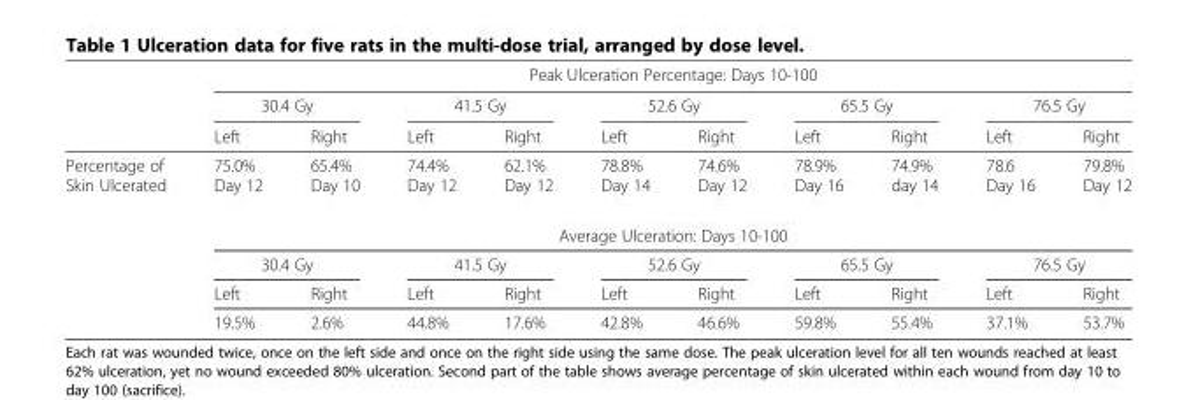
<table><thead><tr><td rowspan="3"></td><td colspan="10">Peak Ulceration Percentage: Days 10-100</td></tr><tr><td colspan="2">30.4 Gy</td><td colspan="2">41.5 Gy</td><td colspan="2">52.6 Gy</td><td colspan="2">65.5 Gy</td><td colspan="2">76.5 Gy</td></tr><tr><td>Left</td><td>Right</td><td>Left</td><td>Right</td><td>Left</td><td>Right</td><td>Left</td><td>Right</td><td>Left</td><td>Right</td></tr></thead><tbody><tr><td rowspan="5">Percentage of Skin Ulcerated</td><td>75.0% Day 12</td><td>65.4% Day 10</td><td>74.4% Day 12</td><td>62.1% Day 12</td><td>78.8% Day 14</td><td>74.6% Day 12</td><td>78.9% Day 16</td><td>74.9% day 14</td><td>78.6 Day 16</td><td>79.8% Day 12</td></tr><tr><td colspan="10">Average Ulceration: Days 10-100</td></tr><tr><td colspan="2">30.4 Gy</td><td colspan="2">41.5 Gy</td><td colspan="2">52.6 Gy</td><td colspan="2">65.5 Gy</td><td colspan="2">76.5 Gy</td></tr><tr><td>Left</td><td>Right</td><td>Left</td><td>Right</td><td>Left</td><td>Right</td><td>Left</td><td>Right</td><td>Left</td><td>Right</td></tr><tr><td>19.5%</td><td>2.6%</td><td>44.8%</td><td>17.6%</td><td>42.8%</td><td>46.6%</td><td>59.8%</td><td>55.4%</td><td>37.1%</td><td>53.7%</td></tr></tbody></table>